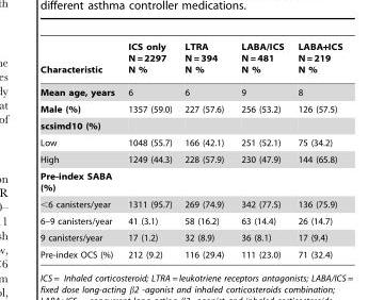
<table><thead><tr><td>Characteristic</td><td>ICS only N = 2297 N %</td><td>LTRA N = 394 N %</td><td>LABA/ICS N = 481 N %</td><td>LABA+ICS N = 219 N %</td></tr></thead><tbody><tr><td>Mean age, years</td><td>6</td><td>6</td><td>9</td><td>8</td></tr><tr><td>Male (%)</td><td>1357 (59.0)</td><td>227 (57.6)</td><td>256 (53.2)</td><td>126 (57.5)</td></tr><tr><td colspan="5">scsimd10 (%)</td></tr><tr><td>Low</td><td>1048 (55.7)</td><td>166 (42.1)</td><td>251 (52.1)</td><td>75 (34.2)</td></tr><tr><td>High</td><td>1249 (44.3)</td><td>228 (57.9)</td><td>230 (47.9)</td><td>144 (65.8)</td></tr><tr><td colspan="5">Pre-index SABA (%)</td></tr><tr><td>&lt;6 canisters/year</td><td>1311 (95.7)</td><td>269 (74.9)</td><td>342 (77.5)</td><td>136 (75.9)</td></tr><tr><td>6–9 canisters/year</td><td>41 (3.1)</td><td>58 (16.2)</td><td>63 (14.4)</td><td>26 (14.7)</td></tr><tr><td>9 canisters/year</td><td>17 (1.2)</td><td>32 (8.9)</td><td>36 (8.1)</td><td>17 (9.4)</td></tr><tr><td>Pre-index OCS (%)</td><td>212 (9.2)</td><td>116 (29.4)</td><td>111 (23.0)</td><td>71 (32.4)</td></tr></tbody></table>